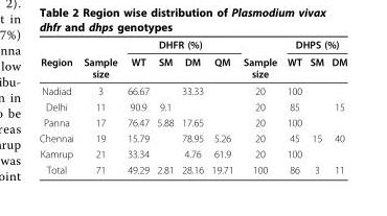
<table><thead><tr><td rowspan="2">Region</td><td rowspan="2">Sample size</td><td colspan="4">DHFR (%)</td><td rowspan="2">Sample size</td><td colspan="3">DHPS (%)</td></tr><tr><td>WT</td><td>SM</td><td>DM</td><td>QM</td><td>WT</td><td>SM</td><td>DM</td></tr></thead><tbody><tr><td>Nadiad</td><td>3</td><td>66.67</td><td></td><td>33.33</td><td></td><td>20</td><td>100</td><td></td><td></td></tr><tr><td>Delhi</td><td>11</td><td>90.9</td><td>9.1</td><td></td><td></td><td>20</td><td>85</td><td></td><td>15</td></tr><tr><td>Panna</td><td>17</td><td>76.47</td><td>5.88</td><td>17.65</td><td></td><td>20</td><td>100</td><td></td><td></td></tr><tr><td>Chennai</td><td>19</td><td>15.79</td><td></td><td>78.95</td><td>5.26</td><td>20</td><td>45</td><td>15</td><td>40</td></tr><tr><td>Kamrup</td><td>21</td><td>33.34</td><td></td><td>4.76</td><td>61.9</td><td>20</td><td>100</td><td></td><td></td></tr><tr><td>Total</td><td>71</td><td>49.29</td><td>2.81</td><td>28.16</td><td>19.71</td><td>100</td><td>86</td><td>3</td><td>11</td></tr></tbody></table>